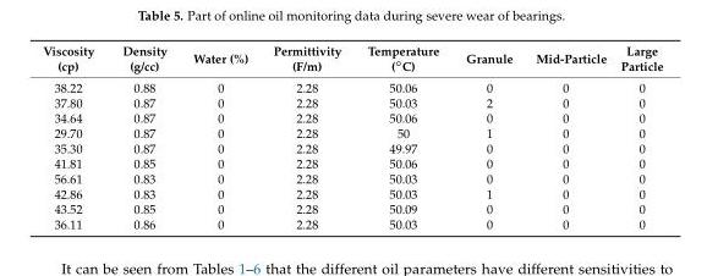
<table><thead><tr><td>Viscosity (cp)</td><td>Density (g/cc)</td><td>Water (%)</td><td>Permittivity (F/m)</td><td>Temperature (◦C)</td><td>Granule</td><td>Mid-Particle</td><td>Large Particle</td></tr></thead><tbody><tr><td>38.22</td><td>0.88</td><td>0</td><td>2.28</td><td>50.06</td><td>0</td><td>0</td><td>0</td></tr><tr><td>37.80</td><td>0.87</td><td>0</td><td>2.28</td><td>50.03</td><td>2</td><td>0</td><td>0</td></tr><tr><td>34.64</td><td>0.87</td><td>0</td><td>2.28</td><td>50.06</td><td>0</td><td>0</td><td>0</td></tr><tr><td>29.70</td><td>0.87</td><td>0</td><td>2.28</td><td>50</td><td>1</td><td>0</td><td>0</td></tr><tr><td>35.30</td><td>0.87</td><td>0</td><td>2.28</td><td>49.97</td><td>0</td><td>0</td><td>0</td></tr><tr><td>41.81</td><td>0.85</td><td>0</td><td>2.28</td><td>50.06</td><td>0</td><td>0</td><td>0</td></tr><tr><td>56.61</td><td>0.83</td><td>0</td><td>2.28</td><td>50.03</td><td>0</td><td>0</td><td>0</td></tr><tr><td>42.86</td><td>0.83</td><td>0</td><td>2.28</td><td>50.03</td><td>1</td><td>0</td><td>0</td></tr><tr><td>43.52</td><td>0.85</td><td>0</td><td>2.28</td><td>50.09</td><td>0</td><td>0</td><td>0</td></tr><tr><td>36.11</td><td>0.86</td><td>0</td><td>2.28</td><td>50.03</td><td>0</td><td>0</td><td>0</td></tr></tbody></table>